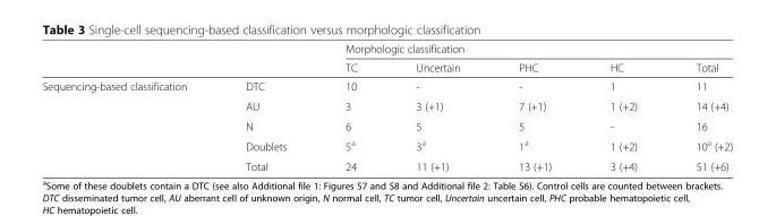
<table><thead><tr><td rowspan="2"></td><td rowspan="2"></td><td colspan="5">Morphologic classification</td></tr><tr><td>TC</td><td>Uncertain</td><td>PHC</td><td>HC</td><td>Total</td></tr></thead><tbody><tr><td rowspan="5">Sequencing-based classification</td><td>DTC</td><td>10</td><td>-</td><td>-</td><td>1</td><td>11</td></tr><tr><td>AU</td><td>3</td><td>3 (+1)</td><td>7 (+1)</td><td>1 (+2)</td><td>14 (+4)</td></tr><tr><td>N</td><td>6</td><td>5</td><td>5</td><td>-</td><td>16</td></tr><tr><td>Doublets</td><td>5<sup>a</sup></td><td>3<sup>a</sup></td><td>1<sup>a</sup></td><td>1 (+2)</td><td>10<sup>a</sup> (+2)</td></tr><tr><td>Total</td><td>24</td><td>11 (+1)</td><td>13 (+1)</td><td>3 (+4)</td><td>51 (+6)</td></tr></tbody></table>